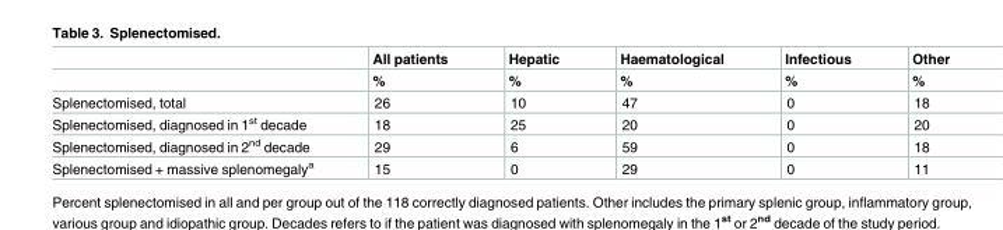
<table><thead><tr><td rowspan="2"></td><td rowspan="2">All patients %</td><td rowspan="2">Hepatic %</td><td rowspan="2">Haematological %</td><td rowspan="2">Infectious %</td><td rowspan="2">Other %</td></tr><tr></tr></thead><tbody><tr><td>Splenectomised, total</td><td>26</td><td>10</td><td>47</td><td>0</td><td>18</td></tr><tr><td>Splenectomised, diagnosed in 1<sup>st</sup> decade</td><td>18</td><td>25</td><td>20</td><td>0</td><td>20</td></tr><tr><td>Splenectomised, diagnosed in 2<sup>nd</sup> decade</td><td>29</td><td>6</td><td>59</td><td>0</td><td>18</td></tr><tr><td>Splenectomised + massive splenomegaly<sup>a</sup></td><td>15</td><td>0</td><td>29</td><td>0</td><td>11</td></tr></tbody></table>